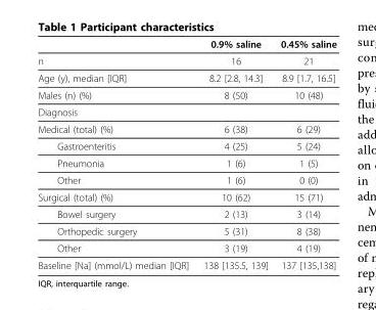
<table><thead><tr><td></td><td>0.9% saline</td><td>0.45% saline</td></tr></thead><tbody><tr><td>n</td><td>16</td><td>21</td></tr><tr><td>Age (y), median [IQR]</td><td>8.2 [2.8, 14.3]</td><td>8.9 [1.7, 16.5]</td></tr><tr><td>Males (n) (%)</td><td>8 (50)</td><td>10 (48)</td></tr><tr><td colspan="3">Diagnosis</td></tr><tr><td>Medical (total) (%)</td><td>6 (38)</td><td>6 (29)</td></tr><tr><td>Gastroenteritis</td><td>4 (25)</td><td>5 (24)</td></tr><tr><td>Pneumonia</td><td>1 (6)</td><td>1 (5)</td></tr><tr><td>Other</td><td>1 (6)</td><td>0 (0)</td></tr><tr><td>Surgical (total) (%)</td><td>10 (62)</td><td>15 (71)</td></tr><tr><td>Bowel surgery</td><td>2 (13)</td><td>3 (14)</td></tr><tr><td>Orthopedic surgery</td><td>5 (31)</td><td>8 (38)</td></tr><tr><td>Other</td><td>3 (19)</td><td>4 (19)</td></tr><tr><td>Baseline [Na] (mmol/L) median [IQR]</td><td>138 [135.5, 139]</td><td>137 [135,138]</td></tr></tbody></table>